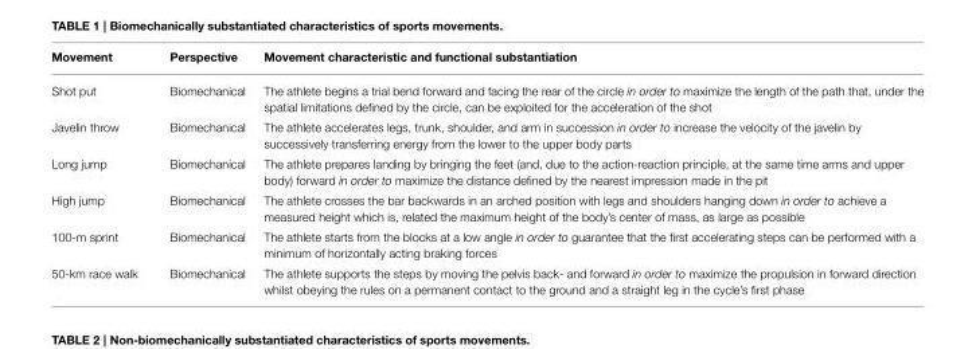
<table><thead><tr><td>Movement</td><td>Perspective</td><td>Movement characteristic and functional substantiation</td></tr></thead><tbody><tr><td>Shot put</td><td>Biomechanical</td><td>The athlete begins a trial bend forward and facing the rear of the circle in order to maximize the length of the path that, under the spatial limitations defined by the circle, can be exploited for the acceleration of the shot</td></tr><tr><td>Javelin throw</td><td>Biomechanical</td><td>The athlete accelerates legs, trunk, shoulder, and arm in succession in order to increase the velocity of the javelin by successively transferring energy from the lower to the upper body parts</td></tr><tr><td>Long jump</td><td>Biomechanical</td><td>The athlete prepares landing by bringing the feet (and, due to the action-reaction principle, at the same time arms and upper body) forward in order to maximize the distance defined by the nearest impression made in the pit</td></tr><tr><td>High jump</td><td>Biomechanical</td><td>The athlete crosses the bar backwards in an arched position with legs and shoulders hanging down in order to achieve a measured height which is, related the maximum height of the body’s center of mass, as large as possible</td></tr><tr><td>100-m sprint</td><td>Biomechanical</td><td>The athlete starts from the blocks at a low angle in order to guarantee that the first accelerating steps can be performed with a minimum of horizontally acting braking forces</td></tr><tr><td>50-km race walk</td><td>Biomechanical</td><td>The athlete supports the steps by moving the pelvis back- and forward in order to maximize the propulsion in forward direction whilst obeying the rules on a permanent contact to the ground and a straight leg in the cycle’s first phase</td></tr></tbody></table>